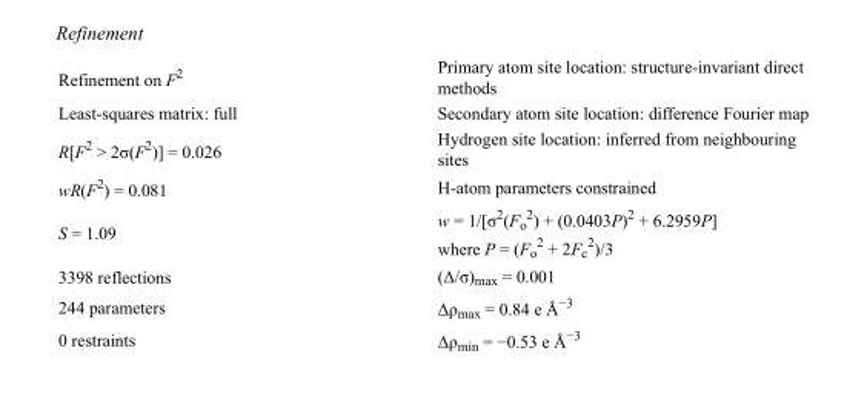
<table><tbody><tr><td>Refinement on F<sup>2</sup></td><td>Primary atom site location: structure-invariant direct methods</td></tr><tr><td>Least-squares matrix: full</td><td>Secondary atom site location: difference Fourier map</td></tr><tr><td>R[F<sup>2</sup> &gt; 2σ(F<sup>2</sup>)] = 0.026</td><td>Hydrogen site location: inferred from neighbouring sites</td></tr><tr><td>wR(F<sup>2</sup>) = 0.081</td><td>H-atom parameters constrained</td></tr><tr><td>S = 1.09</td><td>w = 1/[σ<sup>2</sup>(F<sub>o</sub> <sup>2</sup>) + (0.0403P)<sup>2</sup> + 6.2959P] where P = (F<sub>o</sub> <sup>2</sup> + 2F<sub>c</sub> <sup>2</sup>)/3</td></tr><tr><td>3398 reflections</td><td>(Δ/σ)<sub>max</sub> = 0.001</td></tr><tr><td>244 parameters</td><td>Δρ<sub>max</sub> = 0.84 e Å<sup>−3</sup></td></tr><tr><td>0 restraints</td><td>Δρ<sub>min</sub> = −0.53 e Å<sup>−3</sup></td></tr></tbody></table>